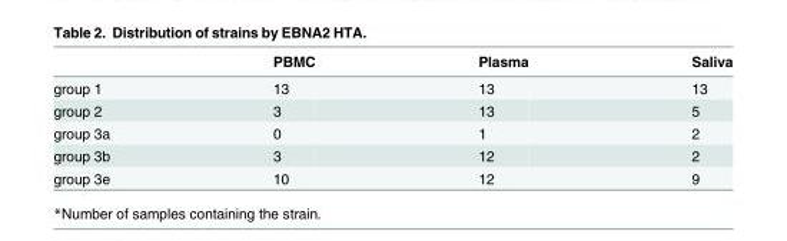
<table><thead><tr><td></td><td>PBMC</td><td>Plasma</td><td>Saliva</td></tr></thead><tbody><tr><td>group 1</td><td>13</td><td>13</td><td>13</td></tr><tr><td>group 2</td><td>3</td><td>13</td><td>5</td></tr><tr><td>group 3a</td><td>0</td><td>1</td><td>2</td></tr><tr><td>group 3b</td><td>3</td><td>12</td><td>2</td></tr><tr><td>group 3e</td><td>10</td><td>12</td><td>9</td></tr></tbody></table>